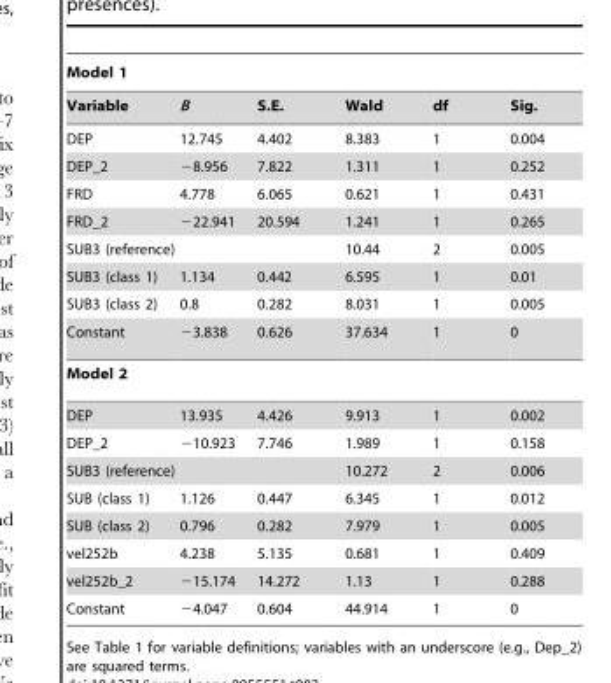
<table><thead><tr><td colspan="6">Model 1</td></tr><tr><td>Variable</td><td>B</td><td>S.E.</td><td>Wald</td><td>df</td><td>Sig.</td></tr></thead><tbody><tr><td>DEP</td><td>12.745</td><td>4.402</td><td>8.383</td><td>1</td><td>0.004</td></tr><tr><td>DEP_2</td><td>−8.956</td><td>7.822</td><td>1.311</td><td>1</td><td>0.252</td></tr><tr><td>FRD</td><td>4.778</td><td>6.065</td><td>0.621</td><td>1</td><td>0.431</td></tr><tr><td>FRD_2</td><td>−22.941</td><td>20.594</td><td>1.241</td><td>1</td><td>0.265</td></tr><tr><td>SUB3 (reference)</td><td></td><td></td><td>10.44</td><td>2</td><td>0.005</td></tr><tr><td>SUB3 (class 1)</td><td>1.134</td><td>0.442</td><td>6.595</td><td>1</td><td>0.01</td></tr><tr><td>SUB3 (class 2)</td><td>0.8</td><td>0.282</td><td>8.031</td><td>1</td><td>0.005</td></tr><tr><td>Constant</td><td>−3.838</td><td>0.626</td><td>37.634</td><td>1</td><td>0</td></tr><tr><td colspan="6">Model 2</td></tr><tr><td>DEP</td><td>13.935</td><td>4.426</td><td>9.913</td><td>1</td><td>0.002</td></tr><tr><td>DEP_2</td><td>−10.923</td><td>7.746</td><td>1.989</td><td>1</td><td>0.158</td></tr><tr><td>SUB3 (reference)</td><td></td><td></td><td>10.272</td><td>2</td><td>0.006</td></tr><tr><td>SUB (class 1)</td><td>1.126</td><td>0.447</td><td>6.345</td><td>1</td><td>0.012</td></tr><tr><td>SUB (class 2)</td><td>0.796</td><td>0.282</td><td>7.979</td><td>1</td><td>0.005</td></tr><tr><td>vel252b</td><td>4.238</td><td>5.135</td><td>0.681</td><td>1</td><td>0.409</td></tr><tr><td>vel252b_2</td><td>−15.174</td><td>14.272</td><td>1.13</td><td>1</td><td>0.288</td></tr><tr><td>Constant</td><td>−4.047</td><td>0.604</td><td>44.914</td><td>1</td><td>0</td></tr></tbody></table>